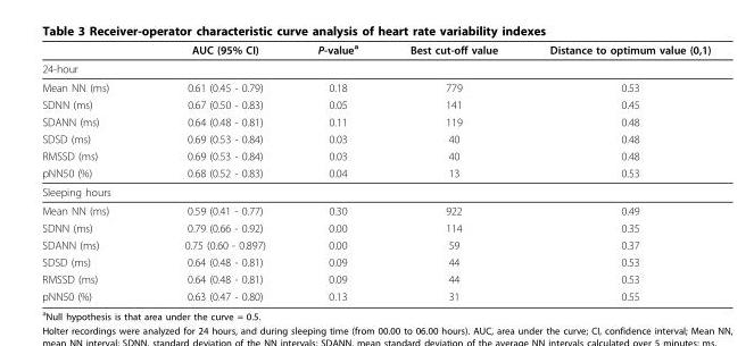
<table><thead><tr><td></td><td>AUC (95% CI)</td><td>P-value<sup>a</sup></td><td>Best cut-off value</td><td>Distance to optimum value (0,1)</td></tr></thead><tbody><tr><td colspan="5">24-hour</td></tr><tr><td>Mean NN (ms)</td><td>0.61 (0.45 - 0.79)</td><td>0.18</td><td>779</td><td>0.53</td></tr><tr><td>SDNN (ms)</td><td>0.67 (0.50 - 0.83)</td><td>0.05</td><td>141</td><td>0.45</td></tr><tr><td>SDANN (ms)</td><td>0.64 (0.48 - 0.81)</td><td>0.11</td><td>119</td><td>0.48</td></tr><tr><td>SDSD (ms)</td><td>0.69 (0.53 - 0.84)</td><td>0.03</td><td>40</td><td>0.48</td></tr><tr><td>RMSSD (ms)</td><td>0.69 (0.53 - 0.84)</td><td>0.03</td><td>40</td><td>0.48</td></tr><tr><td>pNN50 (%)</td><td>0.68 (0.52 - 0.83)</td><td>0.04</td><td>13</td><td>0.53</td></tr><tr><td colspan="5">Sleeping hours</td></tr><tr><td>Mean NN (ms)</td><td>0.59 (0.41 - 0.77)</td><td>0.30</td><td>922</td><td>0.49</td></tr><tr><td>SDNN (ms)</td><td>0.79 (0.66 - 0.92)</td><td>0.00</td><td>114</td><td>0.35</td></tr><tr><td>SDANN (ms)</td><td>0.75 (0.60 - 0.897)</td><td>0.00</td><td>59</td><td>0.37</td></tr><tr><td>SDSD (ms)</td><td>0.64 (0.48 - 0.81)</td><td>0.09</td><td>44</td><td>0.53</td></tr><tr><td>RMSSD (ms)</td><td>0.64 (0.48 - 0.81)</td><td>0.09</td><td>44</td><td>0.53</td></tr><tr><td>pNN50 (%)</td><td>0.63 (0.47 - 0.80)</td><td>0.13</td><td>31</td><td>0.55</td></tr></tbody></table>